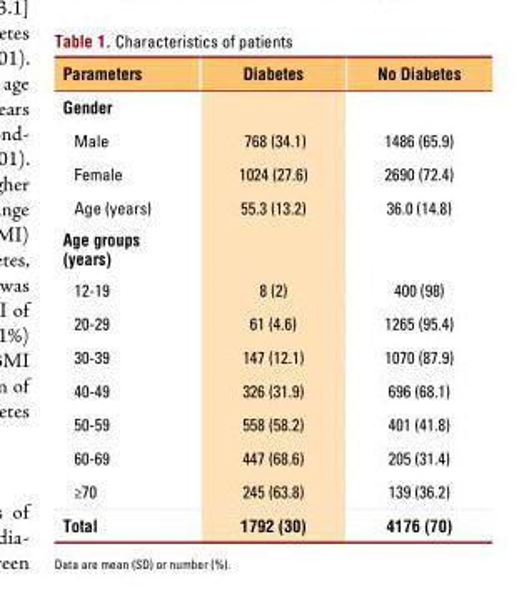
<table><thead><tr><td>Parameters</td><td>Diabetes</td><td>No Diabetes</td></tr></thead><tbody><tr><td colspan="3">Gender</td></tr><tr><td>Male</td><td>768 (34.1)</td><td>1486 (65.9)</td></tr><tr><td>Female</td><td>1024 (27.6)</td><td>2690 (72.4)</td></tr><tr><td>Age (years)</td><td>55.3 (13.2)</td><td>36.0 (14.8)</td></tr><tr><td colspan="3">Age groups (years)</td></tr><tr><td>12-19</td><td>8 (2)</td><td>400 (98)</td></tr><tr><td>20-29</td><td>61 (4.6)</td><td>1265 (95.4)</td></tr><tr><td>30-39</td><td>147 (12.1)</td><td>1070 (87.9)</td></tr><tr><td>40-49</td><td>326 (31.9)</td><td>696 (68.1)</td></tr><tr><td>50-59</td><td>558 (58.2)</td><td>401 (41.8)</td></tr><tr><td>60-69</td><td>447 (68.6)</td><td>205 (31.4)</td></tr><tr><td>≥70</td><td>245 (63.8)</td><td>139 (36.2)</td></tr><tr><td>Total</td><td>1792 (30)</td><td>4176 (70)</td></tr></tbody></table>